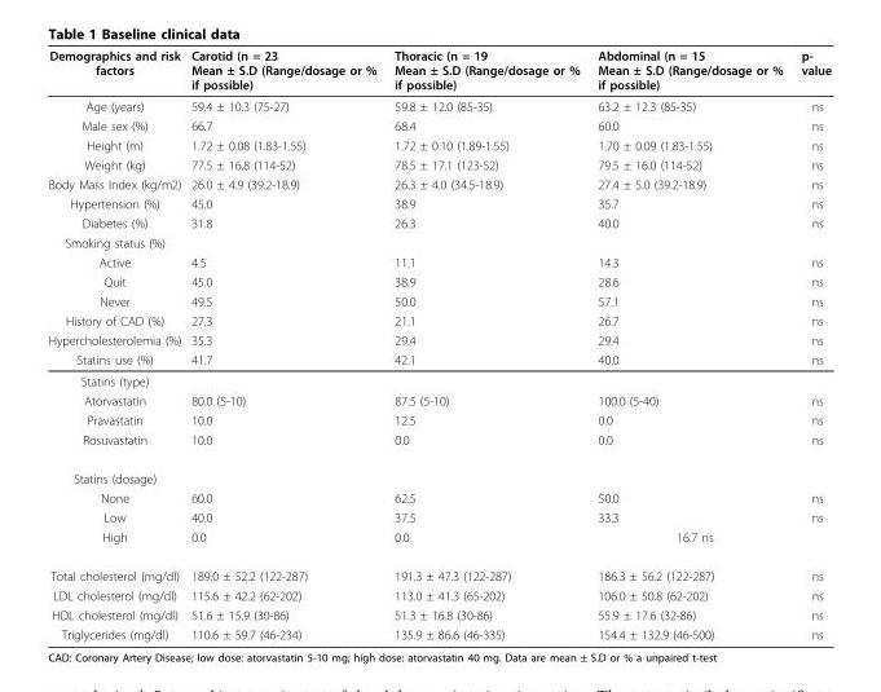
<table><thead><tr><td>Demographics and risk factors</td><td>Carotid (n = 23 Mean ± S.D (Range/dosage or % if possible)</td><td>Thoracic (n = 19 Mean ± S.D (Range/dosage or % if possible)</td><td>Abdominal (n = 15 Mean ± S.D (Range/dosage or % if possible)</td><td>p- value</td></tr></thead><tbody><tr><td>Age (years)</td><td>59.4 ± 10.3 (75-27)</td><td>59.8 ± 12.0 (85-35)</td><td>63.2 ± 12.3 (85-35)</td><td>ns</td></tr><tr><td>Male sex (%)</td><td>66.7</td><td>68.4</td><td>60.0</td><td>ns</td></tr><tr><td>Height (m)</td><td>1.72 ± 0.08 (1.83-1.55)</td><td>1.72 ± 0.10 (1.89-1.55)</td><td>1.70 ± 0.09 (1.83-1.55)</td><td>ns</td></tr><tr><td>Weight (kg)</td><td>77.5 ± 16.8 (114-52)</td><td>78.5 ± 17.1 (123-52)</td><td>79.5 ± 16.0 (114-52)</td><td>ns</td></tr><tr><td>Body Mass Index (kg/m2)</td><td>26.0 ± 4.9 (39.2-18.9)</td><td>26.3 ± 4.0 (34.5-18.9)</td><td>27.4 ± 5.0 (39.2-18.9)</td><td>ns</td></tr><tr><td>Hypertension (%)</td><td>45.0</td><td>38.9</td><td>35.7</td><td>ns</td></tr><tr><td>Diabetes (%)</td><td>31.8</td><td>26.3</td><td>40.0</td><td>ns</td></tr><tr><td colspan="5">Smoking status (%)</td></tr><tr><td>Active</td><td>4.5</td><td>11.1</td><td>14.3</td><td>ns</td></tr><tr><td>Quit</td><td>45.0</td><td>38.9</td><td>28.6</td><td>ns</td></tr><tr><td>Never</td><td>49.5</td><td>50.0</td><td>57.1</td><td>ns</td></tr><tr><td>History of CAD (%)</td><td>27.3</td><td>21.1</td><td>26.7</td><td>ns</td></tr><tr><td>Hypercholesterolemia (%)</td><td>35.3</td><td>29.4</td><td>29.4</td><td>ns</td></tr><tr><td>Statins use (%)</td><td>41.7</td><td>42.1</td><td>40.0</td><td>ns</td></tr><tr><td colspan="5">Statins (type)</td></tr><tr><td>Atorvastatin</td><td>80.0 (5-10)</td><td>87.5 (5-10)</td><td>100.0 (5-40)</td><td>ns</td></tr><tr><td>Pravastatin</td><td>10.0</td><td>12.5</td><td>0.0</td><td>ns</td></tr><tr><td>Rosuvastatin</td><td>10.0</td><td>0.0</td><td>0.0</td><td>ns</td></tr><tr><td colspan="5">Statins (dosage)</td></tr><tr><td>None</td><td>60.0</td><td>62.5</td><td>50.0</td><td>ns</td></tr><tr><td>Low</td><td>40.0</td><td>37.5</td><td>33.3</td><td>ns</td></tr><tr><td>High</td><td>0.0</td><td>0.0</td><td>16.7 ns</td><td></td></tr><tr><td>Total cholesterol (mg/dl)</td><td>189.0 ± 52.2 (122-287)</td><td>191.3 ± 47.3 (122-287)</td><td>186.3 ± 56.2 (122-287)</td><td>ns</td></tr><tr><td>LDL cholesterol (mg/dl)</td><td>115.6 ± 42.2 (62-202)</td><td>113.0 ± 41.3 (65-202)</td><td>106.0 ± 50.8 (62-202)</td><td>ns</td></tr><tr><td>HDL cholesterol (mg/dl)</td><td>51.6 ± 15.9 (30-86)</td><td>51.3 ± 16.8 (30-86)</td><td>55.9 ± 17.6 (32-86)</td><td>ns</td></tr><tr><td>Triglycerides (mg/dl)</td><td>110.6 ± 59.7 (46-234)</td><td>135.9 ± 86.6 (46-335)</td><td>154.4 ± 132.9 (46-500)</td><td>ns</td></tr></tbody></table>